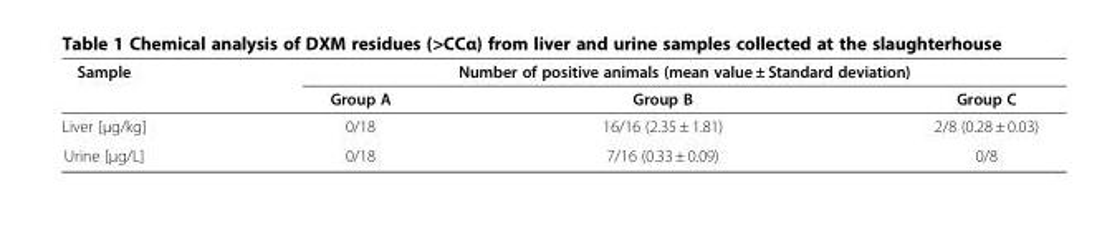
<table><thead><tr><td rowspan="2">Sample</td><td colspan="3">Number of positive animals (mean value ± Standard deviation)</td></tr><tr><td>Group A</td><td>Group B</td><td>Group C</td></tr></thead><tbody><tr><td>Liver [μg/kg]</td><td>0/18</td><td>16/16 (2.35 ± 1.81)</td><td>2/8 (0.28 ± 0.03)</td></tr><tr><td>Urine [μg/L]</td><td>0/18</td><td>7/16 (0.33 ± 0.09)</td><td>0/8</td></tr></tbody></table>